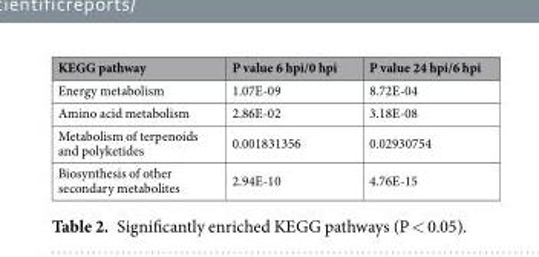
<table><thead><tr><td>KEGG pathway</td><td>P value 6 hpi/0 hpi</td><td>P value 24 hpi/6 hpi</td></tr></thead><tbody><tr><td>Energy metabolism</td><td>1.07E-09</td><td>8.72E-04</td></tr><tr><td>Amino acid metabolism</td><td>2.86E-02</td><td>3.18E-08</td></tr><tr><td>Metabolism of terpenoids and polyketides</td><td>0.001831356</td><td>0.02930754</td></tr><tr><td>Biosynthesis of other secondary metabolites</td><td>2.94E-10</td><td>4.76E-15</td></tr></tbody></table>